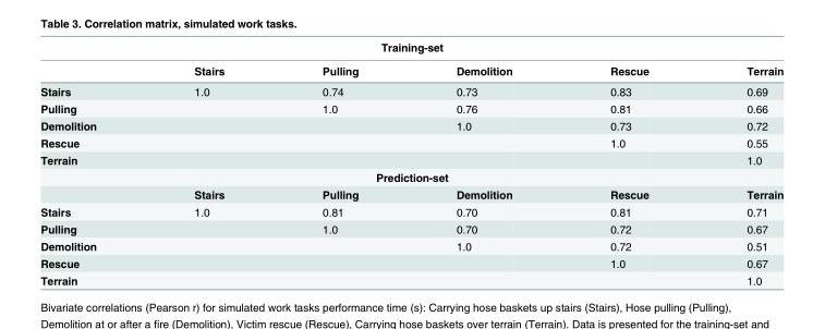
<table><thead><tr><td colspan="6">Training-set</td></tr><tr><td></td><td>Stairs</td><td>Pulling</td><td>Demolition</td><td>Rescue</td><td>Terrain</td></tr></thead><tbody><tr><td>Stairs</td><td>1.0</td><td>0.74</td><td>0.73</td><td>0.83</td><td>0.69</td></tr><tr><td>Pulling</td><td></td><td>1.0</td><td>0.76</td><td>0.81</td><td>0.66</td></tr><tr><td>Demolition</td><td></td><td></td><td>1.0</td><td>0.73</td><td>0.72</td></tr><tr><td>Rescue</td><td></td><td></td><td></td><td>1.0</td><td>0.55</td></tr><tr><td>Terrain</td><td></td><td></td><td></td><td></td><td>1.0</td></tr><tr><td colspan="6">Prediction-set</td></tr><tr><td></td><td>Stairs</td><td>Pulling</td><td>Demolition</td><td>Rescue</td><td>Terrain</td></tr><tr><td>Stairs</td><td>1.0</td><td>0.81</td><td>0.70</td><td>0.81</td><td>0.71</td></tr><tr><td>Pulling</td><td></td><td>1.0</td><td>0.70</td><td>0.72</td><td>0.67</td></tr><tr><td>Demolition</td><td></td><td></td><td>1.0</td><td>0.72</td><td>0.51</td></tr><tr><td>Rescue</td><td></td><td></td><td></td><td>1.0</td><td>0.67</td></tr><tr><td>Terrain</td><td></td><td></td><td></td><td></td><td>1.0</td></tr></tbody></table>